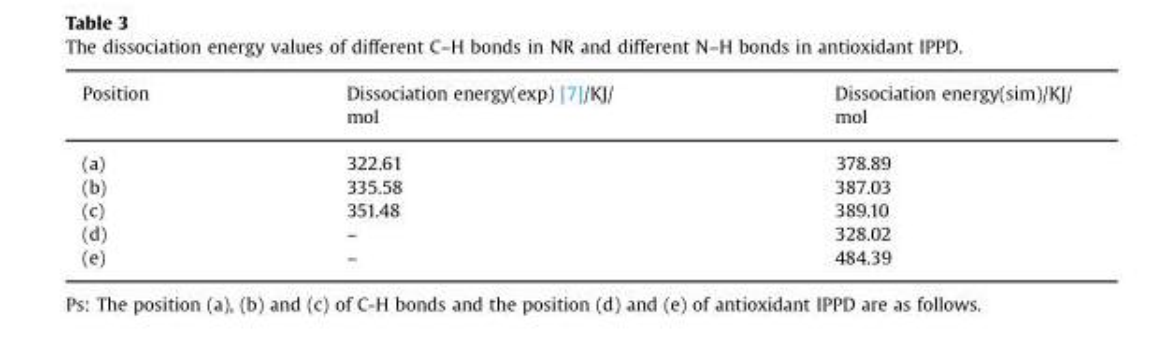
<table><thead><tr><td>Position</td><td>Dissociation energy(exp) [7]/KJ/ mol</td><td>Dissociation energy(sim)/KJ/ mol</td></tr></thead><tbody><tr><td>(a)</td><td>322.61</td><td>378.89</td></tr><tr><td>(b)</td><td>335.58</td><td>387.03</td></tr><tr><td>(c)</td><td>351.48</td><td>389.10</td></tr><tr><td>(d)</td><td>–</td><td>328.02</td></tr><tr><td>(e)</td><td>–</td><td>484.39</td></tr></tbody></table>